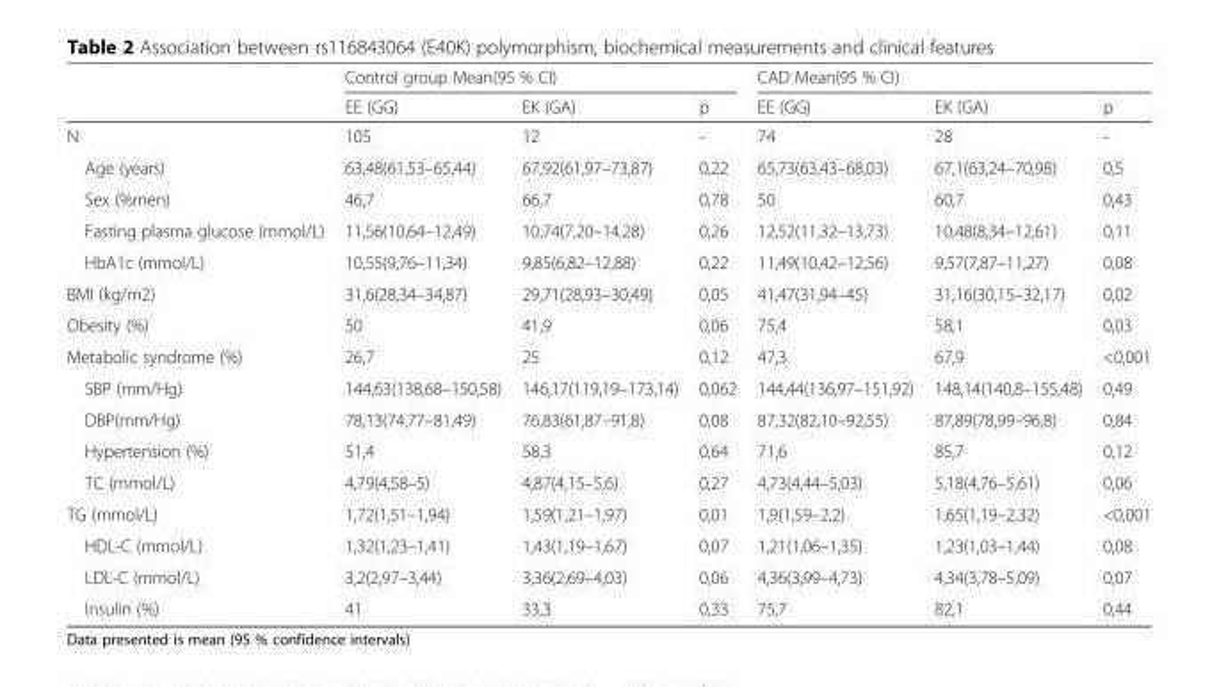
<table><thead><tr><td rowspan="2"></td><td colspan="3">Control group Mean(95 % CI)</td><td colspan="3">CAD Mean(95 % CI)</td></tr><tr><td>EE (GG)</td><td>EK (GA)</td><td>p</td><td>EE (GG)</td><td>EK (GA)</td><td>p</td></tr></thead><tbody><tr><td>N</td><td>105</td><td>12</td><td>-</td><td>74</td><td>28</td><td>-</td></tr><tr><td>Age (years)</td><td>63,48(61,53–65,44)</td><td>67,92(61,97–73,87)</td><td>0,22</td><td>65,73(63,43–68,03)</td><td>67,1(63,24–70,98)</td><td>0,5</td></tr><tr><td>Sex (%men)</td><td>46,7</td><td>66,7</td><td>0,78</td><td>50</td><td>60,7</td><td>0,43</td></tr><tr><td>Fasting plasma glucose (mmol/L)</td><td>11,56(10,64–12,49)</td><td>10,74(7,20–14,28)</td><td>0,26</td><td>12,52(11,32–13,73)</td><td>10,48(8,34–12,61)</td><td>0,11</td></tr><tr><td>HbA1c (mmol/L)</td><td>10,55(9,76–11,34)</td><td>9,85(6,82–12,88)</td><td>0,22</td><td>11,49(10,42–12,56)</td><td>9,57(7,87–11,27)</td><td>0,08</td></tr><tr><td>BMI (kg/m2)</td><td>31,6(28,34–34,87)</td><td>29,71(28,93–30,49)</td><td>0,05</td><td>41,47(31,94–45)</td><td>31,16(30,15–32,17)</td><td>0,02</td></tr><tr><td>Obesity (%)</td><td>50</td><td>41,9</td><td>0,06</td><td>75,4</td><td>58,1</td><td>0,03</td></tr><tr><td>Metabolic syndrome (%)</td><td>26,7</td><td>25</td><td>0,12</td><td>47,3</td><td>67,9</td><td>&lt;0,001</td></tr><tr><td>SBP (mm/Hg)</td><td>144,63(138,68–150,58)</td><td>146,17(119,19–173,14)</td><td>0,062</td><td>144,44(136,97–151,92)</td><td>148,14(140,8–155,48)</td><td>0,49</td></tr><tr><td>DBP(mm/Hg)</td><td>78,13(74,77–81,49)</td><td>76,83(61,87–91,8)</td><td>0,08</td><td>87,32(82,10–92,55)</td><td>87,89(78,99–96,8)</td><td>0,84</td></tr><tr><td>Hypertension (%)</td><td>51,4</td><td>58,3</td><td>0,64</td><td>71,6</td><td>85,7</td><td>0,12</td></tr><tr><td>TC (mmol/L)</td><td>4,79(4,58–5)</td><td>4,87(4,15–5,6)</td><td>0,27</td><td>4,73(4,44–5,03)</td><td>5,18(4,76–5,61)</td><td>0,06</td></tr><tr><td>TG (mmol/L)</td><td>1,72(1,51–1,94)</td><td>1,59(1,21–1,97)</td><td>0,01</td><td>1,9(1,59–2,2)</td><td>1,65(1,19–2,32)</td><td>&lt;0,001</td></tr><tr><td>HDL-C (mmol/L)</td><td>1,32(1,23–1,41)</td><td>1,43(1,19–1,67)</td><td>0,07</td><td>1,21(1,06–1,35)</td><td>1,23(1,03–1,44)</td><td>0,08</td></tr><tr><td>LDL-C (mmol/L)</td><td>3,2(2,97–3,44)</td><td>3,36(2,69–4,03)</td><td>0,06</td><td>4,36(3,99–4,73)</td><td>4,34(3,78–5,09)</td><td>0,07</td></tr><tr><td>Insulin (%)</td><td>41</td><td>33,3</td><td>0,33</td><td>75,7</td><td>82,1</td><td>0,44</td></tr></tbody></table>